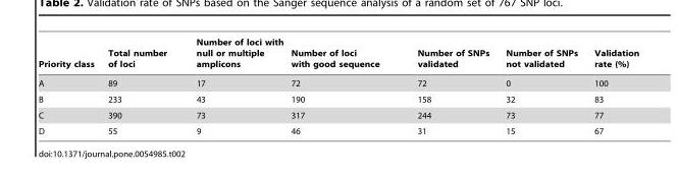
<table><thead><tr><td>Priority class</td><td>Total number of loci</td><td>Number of loci with null or multiple amplicons</td><td>Number of loci with good sequence</td><td>Number of SNPs validated</td><td>Number of SNPs not validated</td><td>Validation rate (%)</td></tr></thead><tbody><tr><td>A</td><td>89</td><td>17</td><td>72</td><td>72</td><td>0</td><td>100</td></tr><tr><td>B</td><td>233</td><td>43</td><td>190</td><td>158</td><td>32</td><td>83</td></tr><tr><td>C</td><td>390</td><td>73</td><td>317</td><td>244</td><td>73</td><td>77</td></tr><tr><td>D</td><td>55</td><td>9</td><td>46</td><td>31</td><td>15</td><td>67</td></tr></tbody></table>